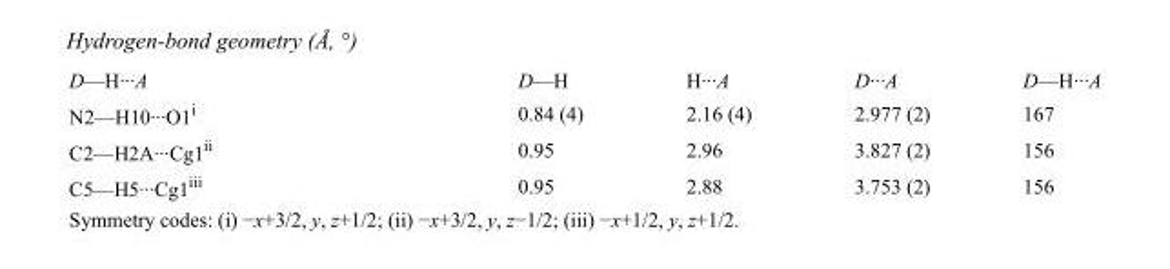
<table><tbody><tr><td>D—H···A</td><td>D—H</td><td>H···A</td><td>D···A</td><td>D—H···A</td></tr><tr><td>N2—H10···O1<sup>i</sup></td><td>0.84 (4)</td><td>2.16 (4)</td><td>2.977 (2)</td><td>167</td></tr><tr><td>C2—H2A···Cg1<sup>ii</sup></td><td>0.95</td><td>2.96</td><td>3.827 (2)</td><td>156</td></tr><tr><td>C5—H5···Cg1<sup>iii</sup></td><td>0.95</td><td>2.88</td><td>3.753 (2)</td><td>156</td></tr></tbody></table>